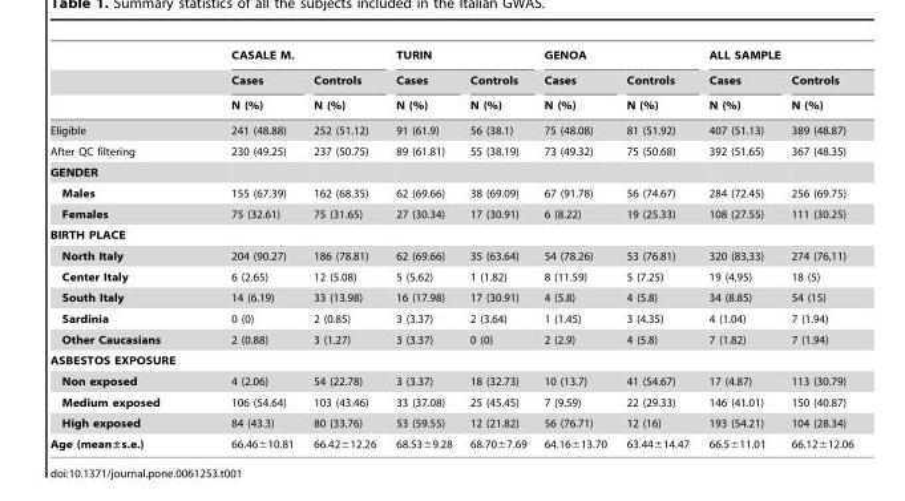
<table><thead><tr><td rowspan="3"></td><td colspan="2">CASALE M.</td><td colspan="2">TURIN</td><td colspan="2">GENOA</td><td colspan="2">ALL SAMPLE</td></tr><tr><td rowspan="2">Cases N (%)</td><td rowspan="2">Controls N (%)</td><td rowspan="2">Cases N (%)</td><td rowspan="2">Controls N (%)</td><td rowspan="2">Cases N (%)</td><td rowspan="2">Controls N (%)</td><td rowspan="2">Cases N (%)</td><td rowspan="2">Controls N (%)</td></tr><tr></tr></thead><tbody><tr><td>Eligible</td><td>241 (48.88)</td><td>252 (51.12)</td><td>91 (61.9)</td><td>56 (38.1)</td><td>75 (48.08)</td><td>81 (51.92)</td><td>407 (51.13)</td><td>389 (48.87)</td></tr><tr><td>After QC filtering</td><td>230 (49.25)</td><td>237 (50.75)</td><td>89 (61.81)</td><td>55 (38.19)</td><td>73 (49.32)</td><td>75 (50.68)</td><td>392 (51.65)</td><td>367 (48.35)</td></tr><tr><td colspan="9">GENDER</td></tr><tr><td>Males</td><td>155 (67.39)</td><td>162 (68.35)</td><td>62 (69.66)</td><td>38 (69.09)</td><td>67 (91.78)</td><td>56 (74.67)</td><td>284 (72.45)</td><td>256 (69.75)</td></tr><tr><td>Females</td><td>75 (32.61)</td><td>75 (31.65)</td><td>27 (30.34)</td><td>17 (30.91)</td><td>6 (8.22)</td><td>19 (25.33)</td><td>108 (27.55)</td><td>111 (30.25)</td></tr><tr><td colspan="9">BIRTH PLACE</td></tr><tr><td>North Italy</td><td>204 (90.27)</td><td>186 (78.81)</td><td>62 (69.66)</td><td>35 (63.64)</td><td>54 (78.26)</td><td>53 (76.81)</td><td>320 (83,33)</td><td>274 (76,11)</td></tr><tr><td>Center Italy</td><td>6 (2.65)</td><td>12 (5.08)</td><td>5 (5.62)</td><td>1 (1.82)</td><td>8 (11.59)</td><td>5 (7.25)</td><td>19 (4,95)</td><td>18 (5)</td></tr><tr><td>South Italy</td><td>14 (6.19)</td><td>33 (13.98)</td><td>16 (17.98)</td><td>17 (30.91)</td><td>4 (5.8)</td><td>4 (5.8)</td><td>34 (8.85)</td><td>54 (15)</td></tr><tr><td>Sardinia</td><td>0 (0)</td><td>2 (0.85)</td><td>3 (3.37)</td><td>2 (3.64)</td><td>1 (1.45)</td><td>3 (4.35)</td><td>4 (1.04)</td><td>7 (1.94)</td></tr><tr><td>Other Caucasians</td><td>2 (0.88)</td><td>3 (1.27)</td><td>3 (3.37)</td><td>0 (0)</td><td>2 (2.9)</td><td>4 (5.8)</td><td>7 (1.82)</td><td>7 (1.94)</td></tr><tr><td colspan="9">ASBESTOS EXPOSURE</td></tr><tr><td>Non exposed</td><td>4 (2.06)</td><td>54 (22.78)</td><td>3 (3.37)</td><td>18 (32.73)</td><td>10 (13.7)</td><td>41 (54.67)</td><td>17 (4.87)</td><td>113 (30.79)</td></tr><tr><td>Medium exposed</td><td>106 (54.64)</td><td>103 (43.46)</td><td>33 (37.08)</td><td>25 (45.45)</td><td>7 (9.59)</td><td>22 (29.33)</td><td>146 (41.01)</td><td>150 (40.87)</td></tr><tr><td>High exposed</td><td>84 (43.3)</td><td>80 (33.76)</td><td>53 (59.55)</td><td>12 (21.82)</td><td>56 (76.71)</td><td>12 (16)</td><td>193 (54.21)</td><td>104 (28.34)</td></tr><tr><td>Age (mean±s.e.)</td><td>66.46±10.81</td><td>66.42±12.26</td><td>68.53±9.28</td><td>68.70±7.69</td><td>64.16±13.70</td><td>63.44±14.47</td><td>66.5±11.01</td><td>66.12±12.06</td></tr></tbody></table>